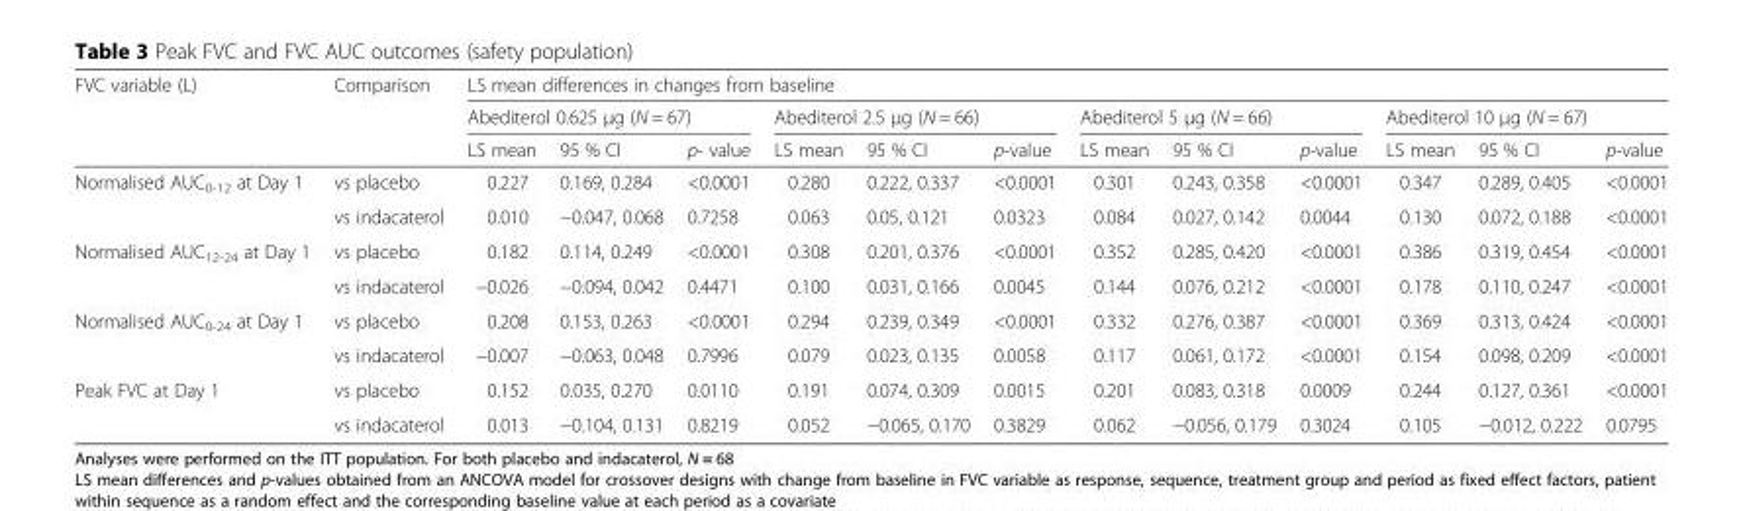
<table><thead><tr><td rowspan="3">FVC variable (L)</td><td rowspan="3">Comparison</td><td colspan="12">LS mean differences in changes from baseline</td></tr><tr><td colspan="3">Abediterol 0.625 μg (N = 67)</td><td colspan="3">Abediterol 2.5 μg (N = 66)</td><td colspan="3">Abediterol 5 μg (N = 66)</td><td colspan="3">Abediterol 10 μg (N = 67)</td></tr><tr><td>LS mean</td><td>95 % CI</td><td>p- value</td><td>LS mean</td><td>95 % CI</td><td>p-value</td><td>LS mean</td><td>95 % CI</td><td>p-value</td><td>LS mean</td><td>95 % CI</td><td>p-value</td></tr></thead><tbody><tr><td rowspan="2">Normalised AUC<sub>0-12</sub> at Day 1</td><td>vs placebo</td><td>0.227</td><td>0.169, 0.284</td><td>&lt;0.0001</td><td>0.280</td><td>0.222, 0.337</td><td>&lt;0.0001</td><td>0.301</td><td>0.243, 0.358</td><td>&lt;0.0001</td><td>0.347</td><td>0.289, 0.405</td><td>&lt;0.0001</td></tr><tr><td>vs indacaterol</td><td>0.010</td><td>−0.047, 0.068</td><td>0.7258</td><td>0.063</td><td>0.05, 0.121</td><td>0.0323</td><td>0.084</td><td>0.027, 0.142</td><td>0.0044</td><td>0.130</td><td>0.072, 0.188</td><td>&lt;0.0001</td></tr><tr><td rowspan="2">Normalised AUC<sub>12-24</sub> at Day 1</td><td>vs placebo</td><td>0.182</td><td>0.114, 0.249</td><td>&lt;0.0001</td><td>0.308</td><td>0.201, 0.376</td><td>&lt;0.0001</td><td>0.352</td><td>0.285, 0.420</td><td>&lt;0.0001</td><td>0.386</td><td>0.319, 0.454</td><td>&lt;0.0001</td></tr><tr><td>vs indacaterol</td><td>−0.026</td><td>−0.094, 0.042</td><td>0.4471</td><td>0.100</td><td>0.031, 0.166</td><td>0.0045</td><td>0.144</td><td>0.076, 0.212</td><td>&lt;0.0001</td><td>0.178</td><td>0.110, 0.247</td><td>&lt;0.0001</td></tr><tr><td rowspan="2">Normalised AUC<sub>0-24</sub> at Day 1</td><td>vs placebo</td><td>0.208</td><td>0.153, 0.263</td><td>&lt;0.0001</td><td>0.294</td><td>0.239, 0.349</td><td>&lt;0.0001</td><td>0.332</td><td>0.276, 0.387</td><td>&lt;0.0001</td><td>0.369</td><td>0.313, 0.424</td><td>&lt;0.0001</td></tr><tr><td>vs indacaterol</td><td>−0.007</td><td>−0.063, 0.048</td><td>0.7996</td><td>0.079</td><td>0.023, 0.135</td><td>0.0058</td><td>0.117</td><td>0.061, 0.172</td><td>&lt;0.0001</td><td>0.154</td><td>0.098, 0.209</td><td>&lt;0.0001</td></tr><tr><td rowspan="2">Peak FVC at Day 1</td><td>vs placebo</td><td>0.152</td><td>0.035, 0.270</td><td>0.0110</td><td>0.191</td><td>0.074, 0.309</td><td>0.0015</td><td>0.201</td><td>0.083, 0.318</td><td>0.0009</td><td>0.244</td><td>0.127, 0.361</td><td>&lt;0.0001</td></tr><tr><td>vs indacaterol</td><td>0.013</td><td>−0.104, 0.131</td><td>0.8219</td><td>0.052</td><td>−0.065, 0.170</td><td>0.3829</td><td>0.062</td><td>−0.056, 0.179</td><td>0.3024</td><td>0.105</td><td>−0.012, 0.222</td><td>0.0795</td></tr></tbody></table>